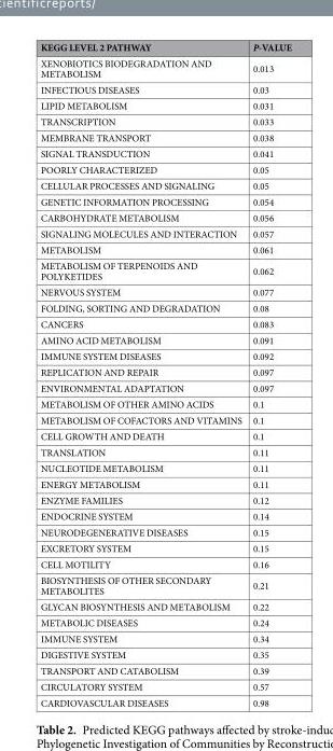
<table><thead><tr><td>KEGG LEVEL 2 PATHWAY</td><td>P-VALUE</td></tr></thead><tbody><tr><td>XENOBIOTICS BIODEGRADATION AND METABOLISM</td><td>0.013</td></tr><tr><td>INFECTIOUS DISEASES</td><td>0.03</td></tr><tr><td>LIPID METABOLISM</td><td>0.031</td></tr><tr><td>TRANSCRIPTION</td><td>0.033</td></tr><tr><td>MEMBRANE TRANSPORT</td><td>0.038</td></tr><tr><td>SIGNAL TRANSDUCTION</td><td>0.041</td></tr><tr><td>POORLY CHARACTERIZED</td><td>0.05</td></tr><tr><td>CELLULAR PROCESSES AND SIGNALING</td><td>0.05</td></tr><tr><td>GENETIC INFORMATION PROCESSING</td><td>0.054</td></tr><tr><td>CARBOHYDRATE METABOLISM</td><td>0.056</td></tr><tr><td>SIGNALING MOLECULES AND INTERACTION</td><td>0.057</td></tr><tr><td>METABOLISM</td><td>0.061</td></tr><tr><td>METABOLISM OF TERPENOIDS AND POLYKETIDES</td><td>0.062</td></tr><tr><td>NERVOUS SYSTEM</td><td>0.077</td></tr><tr><td>FOLDING, SORTING AND DEGRADATION</td><td>0.08</td></tr><tr><td>CANCERS</td><td>0.083</td></tr><tr><td>AMINO ACID METABOLISM</td><td>0.091</td></tr><tr><td>IMMUNE SYSTEM DISEASES</td><td>0.092</td></tr><tr><td>REPLICATION AND REPAIR</td><td>0.097</td></tr><tr><td>ENVIRONMENTAL ADAPTATION</td><td>0.097</td></tr><tr><td>METABOLISM OF OTHER AMINO ACIDS</td><td>0.1</td></tr><tr><td>METABOLISM OF COFACTORS AND VITAMINS</td><td>0.1</td></tr><tr><td>CELL GROWTH AND DEATH</td><td>0.1</td></tr><tr><td>TRANSLATION</td><td>0.11</td></tr><tr><td>NUCLEOTIDE METABOLISM</td><td>0.11</td></tr><tr><td>ENERGY METABOLISM</td><td>0.11</td></tr><tr><td>ENZYME FAMILIES</td><td>0.12</td></tr><tr><td>ENDOCRINE SYSTEM</td><td>0.14</td></tr><tr><td>NEURODEGENERATIVE DISEASES</td><td>0.15</td></tr><tr><td>EXCRETORY SYSTEM</td><td>0.15</td></tr><tr><td>CELL MOTILITY</td><td>0.16</td></tr><tr><td>BIOSYNTHESIS OF OTHER SECONDARY METABOLITES</td><td>0.21</td></tr><tr><td>GLYCAN BIOSYNTHESIS AND METABOLISM</td><td>0.22</td></tr><tr><td>METABOLIC DISEASES</td><td>0.24</td></tr><tr><td>IMMUNE SYSTEM</td><td>0.34</td></tr><tr><td>DIGESTIVE SYSTEM</td><td>0.35</td></tr><tr><td>TRANSPORT AND CATABOLISM</td><td>0.39</td></tr><tr><td>CIRCULATORY SYSTEM</td><td>0.57</td></tr><tr><td>CARDIOVASCULAR DISEASES</td><td>0.98</td></tr></tbody></table>